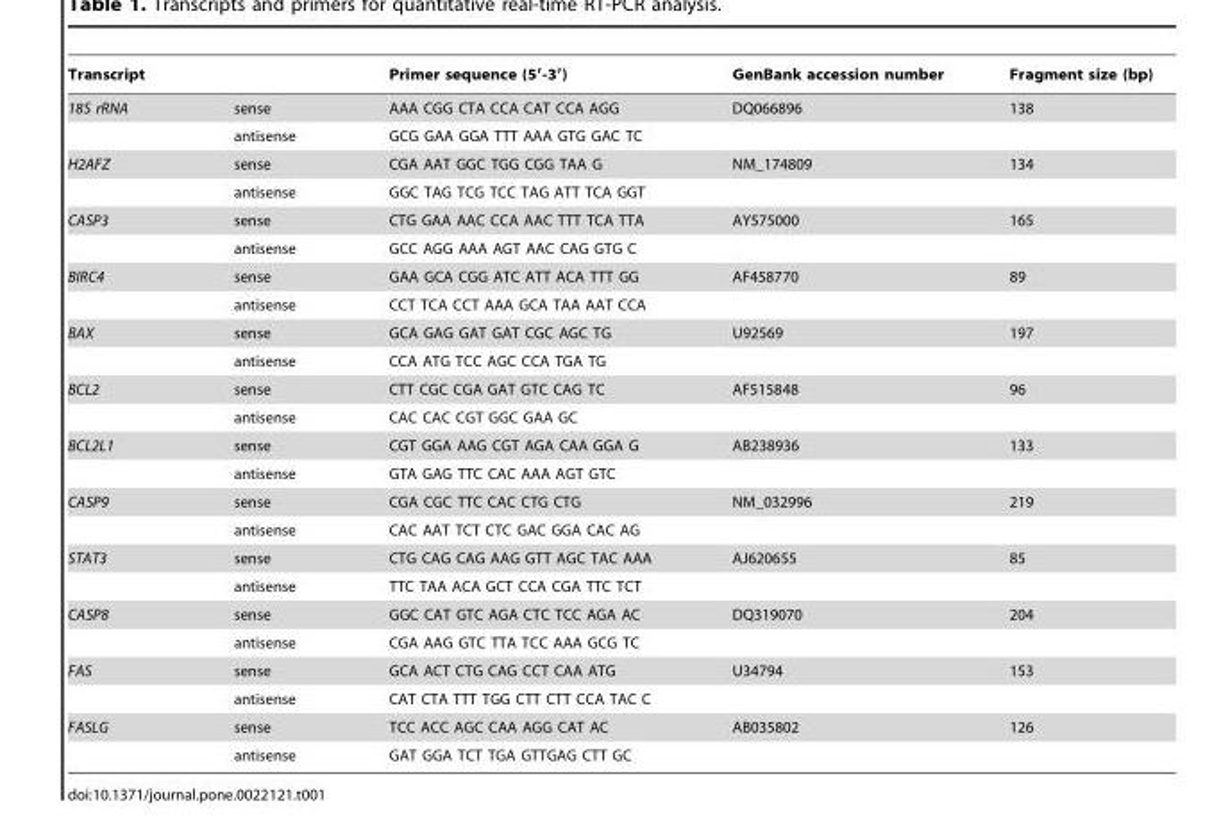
<table><thead><tr><td>Transcript</td><td></td><td>Primer sequence (5′-3′)</td><td>GenBank accession number</td><td>Fragment size (bp)</td></tr></thead><tbody><tr><td rowspan="2">18S rRNA</td><td>sense</td><td>AAA CGG CTA CCA CAT CCA AGG</td><td>DQ066896</td><td>138</td></tr><tr><td>antisense</td><td>GCG GAA GGA TTT AAA GTG GAC TC</td><td></td><td></td></tr><tr><td rowspan="2">H2AFZ</td><td>sense</td><td>CGA AAT GGC TGG CGG TAA G</td><td>NM_174809</td><td>134</td></tr><tr><td>antisense</td><td>GGC TAG TCG TCC TAG ATT TCA GGT</td><td></td><td></td></tr><tr><td rowspan="2">CASP3</td><td>sense</td><td>CTG GAA AAC CCA AAC TTT TCA TTA</td><td>AY575000</td><td>165</td></tr><tr><td>antisense</td><td>GCC AGG AAA AGT AAC CAG GTG C</td><td></td><td></td></tr><tr><td rowspan="2">BIRC4</td><td>sense</td><td>GAA GCA CGG ATC ATT ACA TTT GG</td><td>AF458770</td><td>89</td></tr><tr><td>antisense</td><td>CCT TCA CCT AAA GCA TAA AAT CCA</td><td></td><td></td></tr><tr><td rowspan="2">BAX</td><td>sense</td><td>GCA GAG GAT GAT CGC AGC TG</td><td>U92569</td><td>197</td></tr><tr><td>antisense</td><td>CCA ATG TCC AGC CCA TGA TG</td><td></td><td></td></tr><tr><td rowspan="2">BCL2</td><td>sense</td><td>CTT CGC CGA GAT GTC CAG TC</td><td>AF515848</td><td>96</td></tr><tr><td>antisense</td><td>CAC CAC CGT GGC GAA GC</td><td></td><td></td></tr><tr><td rowspan="2">BCL2L1</td><td>sense</td><td>CGT GGA AAG CGT AGA CAA GGA G</td><td>AB238936</td><td>133</td></tr><tr><td>antisense</td><td>GTA GAG TTC CAC AAA AGT GTC</td><td></td><td></td></tr><tr><td rowspan="2">CASP9</td><td>sense</td><td>CGA CGC TTC CAC CTG CTG</td><td>NM_032996</td><td>219</td></tr><tr><td>antisense</td><td>CAC AAT TCT CTC GAC GGA CAC AG</td><td></td><td></td></tr><tr><td rowspan="2">STAT3</td><td>sense</td><td>CTG CAG CAG AAG GTT AGC TAC AAA</td><td>AJ620655</td><td>85</td></tr><tr><td>antisense</td><td>TTC TAA ACA GCT CCA CGA TTC TCT</td><td></td><td></td></tr><tr><td rowspan="2">CASP8</td><td>sense</td><td>GGC CAT GTC AGA CTC TCC AGA AC</td><td>DQ319070</td><td>204</td></tr><tr><td>antisense</td><td>CGA AAG GTC TTA TCC AAA GCG TC</td><td></td><td></td></tr><tr><td rowspan="2">FAS</td><td>sense</td><td>GCA ACT CTG CAG CCT CAA ATG</td><td>U34794</td><td>153</td></tr><tr><td>antisense</td><td>CAT CTA TTT TGG CTT CTT CCA TAC C</td><td></td><td></td></tr><tr><td rowspan="2">FASLG</td><td>sense</td><td>TCC ACC AGC CAA AGG CAT AC</td><td>AB035802</td><td>126</td></tr><tr><td>antisense</td><td>GAT GGA TCT TGA GTTGAG CTT GC</td><td></td><td></td></tr></tbody></table>